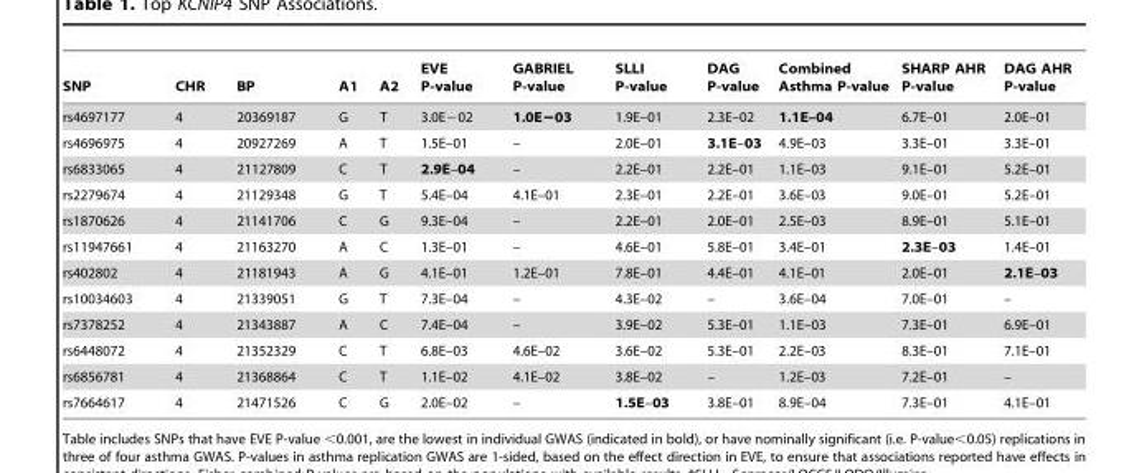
<table><thead><tr><td>SNP</td><td>CHR</td><td>BP</td><td>A1</td><td>A2</td><td>EVE P-value</td><td>GABRIEL P-value</td><td>SLLI P-value</td><td>DAG P-value</td><td>Combined Asthma P-value</td><td>SHARP AHR P-value</td><td>DAG AHR P-value</td></tr></thead><tbody><tr><td>rs4697177</td><td>4</td><td>20369187</td><td>G</td><td>T</td><td>3.0E−02</td><td>1.0E−03</td><td>1.9E–01</td><td>2.3E–02</td><td>1.1E–04</td><td>6.7E–01</td><td>2.0E–01</td></tr><tr><td>rs4696975</td><td>4</td><td>20927269</td><td>A</td><td>T</td><td>1.5E–01</td><td>–</td><td>2.0E–01</td><td>3.1E–03</td><td>4.9E–03</td><td>3.3E–01</td><td>3.3E–01</td></tr><tr><td>rs6833065</td><td>4</td><td>21127809</td><td>C</td><td>T</td><td>2.9E–04</td><td>–</td><td>2.2E–01</td><td>2.2E–01</td><td>1.1E–03</td><td>9.1E–01</td><td>5.2E–01</td></tr><tr><td>rs2279674</td><td>4</td><td>21129348</td><td>G</td><td>T</td><td>5.4E–04</td><td>4.1E–01</td><td>2.3E–01</td><td>2.2E–01</td><td>3.6E–03</td><td>9.0E–01</td><td>5.2E–01</td></tr><tr><td>rs1870626</td><td>4</td><td>21141706</td><td>C</td><td>G</td><td>9.3E–04</td><td>–</td><td>2.2E–01</td><td>2.0E–01</td><td>2.5E–03</td><td>8.9E–01</td><td>5.1E–01</td></tr><tr><td>rs11947661</td><td>4</td><td>21163270</td><td>A</td><td>C</td><td>1.3E–01</td><td>–</td><td>4.6E–01</td><td>5.8E–01</td><td>3.4E–01</td><td>2.3E–03</td><td>1.4E–01</td></tr><tr><td>rs402802</td><td>4</td><td>21181943</td><td>A</td><td>G</td><td>4.1E–01</td><td>1.2E–01</td><td>7.8E–01</td><td>4.4E–01</td><td>4.1E–01</td><td>2.0E–01</td><td>2.1E–03</td></tr><tr><td>rs10034603</td><td>4</td><td>21339051</td><td>G</td><td>T</td><td>7.3E–04</td><td>–</td><td>4.3E–02</td><td>–</td><td>3.6E–04</td><td>7.0E–01</td><td>–</td></tr><tr><td>rs7378252</td><td>4</td><td>21343887</td><td>A</td><td>C</td><td>7.4E–04</td><td>–</td><td>3.9E–02</td><td>5.3E–01</td><td>1.1E–03</td><td>7.3E–01</td><td>6.9E–01</td></tr><tr><td>rs6448072</td><td>4</td><td>21352329</td><td>C</td><td>T</td><td>6.8E–03</td><td>4.6E–02</td><td>3.6E–02</td><td>5.3E–01</td><td>2.2E–03</td><td>8.3E–01</td><td>7.1E–01</td></tr><tr><td>rs6856781</td><td>4</td><td>21368864</td><td>C</td><td>T</td><td>1.1E–02</td><td>4.1E–02</td><td>3.8E–02</td><td>–</td><td>1.2E–03</td><td>7.2E–01</td><td>–</td></tr><tr><td>rs7664617</td><td>4</td><td>21471526</td><td>C</td><td>G</td><td>2.0E–02</td><td>–</td><td>1.5E–03</td><td>3.8E–01</td><td>8.9E–04</td><td>7.3E–01</td><td>4.1E–01</td></tr></tbody></table>